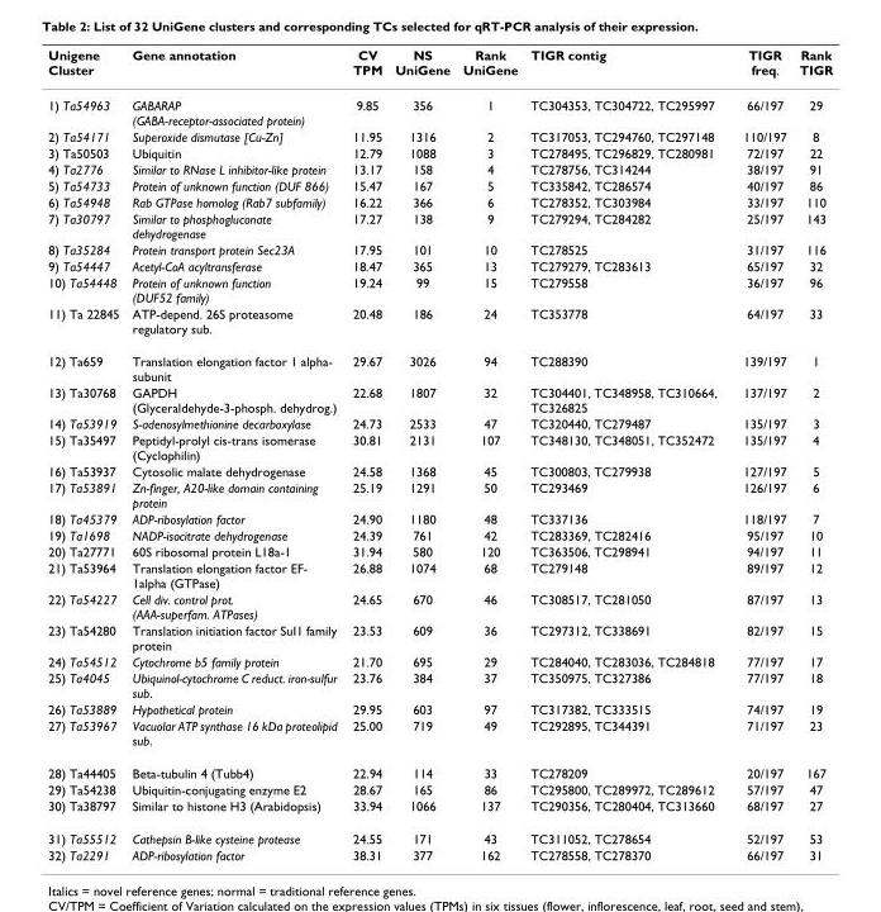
<table><thead><tr><td>Unigene Cluster</td><td>Gene annotation</td><td>CV TPM</td><td>NS UniGene</td><td>Rank UniGene</td><td>TIGR contig</td><td>TIGR freq.</td><td>Rank TIGR</td></tr></thead><tbody><tr><td>1) Ta54963</td><td>GABARAP (GABA-receptor-associated protein)</td><td>9.85</td><td>356</td><td>1</td><td>TC304353, TC304722, TC295997</td><td>66/197</td><td>29</td></tr><tr><td>2) Ta54171</td><td>Superoxide dismutase [Cu-Zn]</td><td>11.95</td><td>1316</td><td>2</td><td>TC317053, TC294760, TC297148</td><td>110/197</td><td>8</td></tr><tr><td>3) Ta50503</td><td>Ubiquitin</td><td>12.79</td><td>1088</td><td>3</td><td>TC278495, TC296829, TC280981</td><td>72/197</td><td>22</td></tr><tr><td>4) Ta2776</td><td>Similar to RNase L inhibitor-like protein</td><td>13.17</td><td>158</td><td>4</td><td>TC278756, TC314244</td><td>38/197</td><td>91</td></tr><tr><td>5) Ta54733</td><td>Protein of unknown function (DUF 866)</td><td>15.47</td><td>167</td><td>5</td><td>TC335842, TC286574</td><td>40/197</td><td>86</td></tr><tr><td>6) Ta54948</td><td>Rab GTPase homolog (Rab7 subfamily)</td><td>16.22</td><td>366</td><td>6</td><td>TC278352, TC303984</td><td>33/197</td><td>110</td></tr><tr><td>7) Ta30797</td><td>Similar to phosphogluconate dehydrogenase</td><td>17.27</td><td>138</td><td>9</td><td>TC279294, TC284282</td><td>25/197</td><td>143</td></tr><tr><td>8) Ta35284</td><td>Protein transport protein Sec23A</td><td>17.95</td><td>101</td><td>10</td><td>TC278525</td><td>31/197</td><td>116</td></tr><tr><td>9) Ta54447</td><td>Acetyl-CoA acyltransferase</td><td>18.47</td><td>365</td><td>13</td><td>TC279279, TC283613</td><td>65/197</td><td>32</td></tr><tr><td>10) Ta54448</td><td>Protein of unknown function (DUF52 family)</td><td>19.24</td><td>99</td><td>15</td><td>TC279558</td><td>36/197</td><td>96</td></tr><tr><td>11) Ta 22845</td><td>ATP-depend. 26S proteasome regulatory sub.</td><td>20.48</td><td>186</td><td>24</td><td>TC353778</td><td>64/197</td><td>33</td></tr><tr><td>12) Ta659</td><td>Translation elongation factor 1 alpha- subunit</td><td>29.67</td><td>3026</td><td>94</td><td>TC288390</td><td>139/197</td><td>1</td></tr><tr><td>13) Ta30768</td><td>GAPDH (Glyceraldehyde-3-phosph. dehydrog.)</td><td>22.68</td><td>1807</td><td>32</td><td>TC304401, TC348958, TC310664, TC326825</td><td>137/197</td><td>2</td></tr><tr><td>14) Ta53919</td><td>S-adenosylmethionine decarboxylase</td><td>24.73</td><td>2533</td><td>47</td><td>TC320440, TC279487</td><td>135/197</td><td>3</td></tr><tr><td>15) Ta35497</td><td>Peptidyl-prolyl cis-trans isomerase (Cyclophilin)</td><td>30.81</td><td>2131</td><td>107</td><td>TC348130, TC348051, TC352472</td><td>135/197</td><td>4</td></tr><tr><td>16) Ta53937</td><td>Cytosolic malate dehydrogenase</td><td>24.58</td><td>1368</td><td>45</td><td>TC300803, TC279938</td><td>127/197</td><td>5</td></tr><tr><td>17) Ta53891</td><td>Zn-finger, A20-like domain containing protein</td><td>25.19</td><td>1291</td><td>50</td><td>TC293469</td><td>126/197</td><td>6</td></tr><tr><td>18) Ta45379</td><td>ADP-ribosylation factor</td><td>24.90</td><td>1180</td><td>48</td><td>TC337136</td><td>118/197</td><td>7</td></tr><tr><td>19) Ta1698</td><td>NADP-isocitrate dehydrogenase</td><td>24.39</td><td>761</td><td>42</td><td>TC283369, TC282416</td><td>95/197</td><td>10</td></tr><tr><td>20) Ta27771</td><td>60S ribosomal protein L18a-1</td><td>31.94</td><td>580</td><td>120</td><td>TC363506, TC298941</td><td>94/197</td><td>11</td></tr><tr><td>21) Ta53964</td><td>Translation elongation factor EF- 1alpha (GTPase)</td><td>26.88</td><td>1074</td><td>68</td><td>TC279148</td><td>89/197</td><td>12</td></tr><tr><td>22) Ta54227</td><td>Cell div. control prot. (AAA-superfam. ATPases)</td><td>24.65</td><td>670</td><td>46</td><td>TC308517, TC281050</td><td>87/197</td><td>13</td></tr><tr><td>23) Ta54280</td><td>Translation initiation factor SuI1 family protein</td><td>23.53</td><td>609</td><td>36</td><td>TC297312, TC338691</td><td>82/197</td><td>15</td></tr><tr><td>24) Ta54512</td><td>Cytochrome b5 family protein</td><td>21.70</td><td>695</td><td>29</td><td>TC284040, TC283036, TC284818</td><td>77/197</td><td>17</td></tr><tr><td>25) Ta4045</td><td>Ubiquinol-cytochrome C reduct. iron-sulfur sub.</td><td>23.76</td><td>384</td><td>37</td><td>TC350975, TC327386</td><td>77/197</td><td>18</td></tr><tr><td>26) Ta53889</td><td>Hypothetical protein</td><td>29.95</td><td>603</td><td>97</td><td>TC317382, TC333515</td><td>74/197</td><td>19</td></tr><tr><td>27) Ta53967</td><td>Vacuolar ATP synthase 16 kDa proteolipid sub.</td><td>25.00</td><td>719</td><td>49</td><td>TC292895, TC344391</td><td>71/197</td><td>23</td></tr><tr><td>28) Ta44405</td><td>Beta-tubulin 4 (Tubb4)</td><td>22.94</td><td>114</td><td>33</td><td>TC278209</td><td>20/197</td><td>167</td></tr><tr><td>29) Ta54238</td><td>Ubiquitin-conjugating enzyme E2</td><td>28.67</td><td>165</td><td>86</td><td>TC295800, TC289972, TC289612</td><td>57/197</td><td>47</td></tr><tr><td>30) Ta38797</td><td>Similar to histone H3 (Arabidopsis)</td><td>33.94</td><td>1066</td><td>137</td><td>TC290356, TC280404, TC313660</td><td>68/197</td><td>27</td></tr><tr><td>31) Ta55512</td><td>Cathepsin B-like cysteine protease</td><td>24.55</td><td>171</td><td>43</td><td>TC311052, TC278654</td><td>52/197</td><td>53</td></tr><tr><td>32) Ta2291</td><td>ADP-ribosylation factor</td><td>38.31</td><td>377</td><td>162</td><td>TC278558, TC278370</td><td>66/197</td><td>31</td></tr></tbody></table>